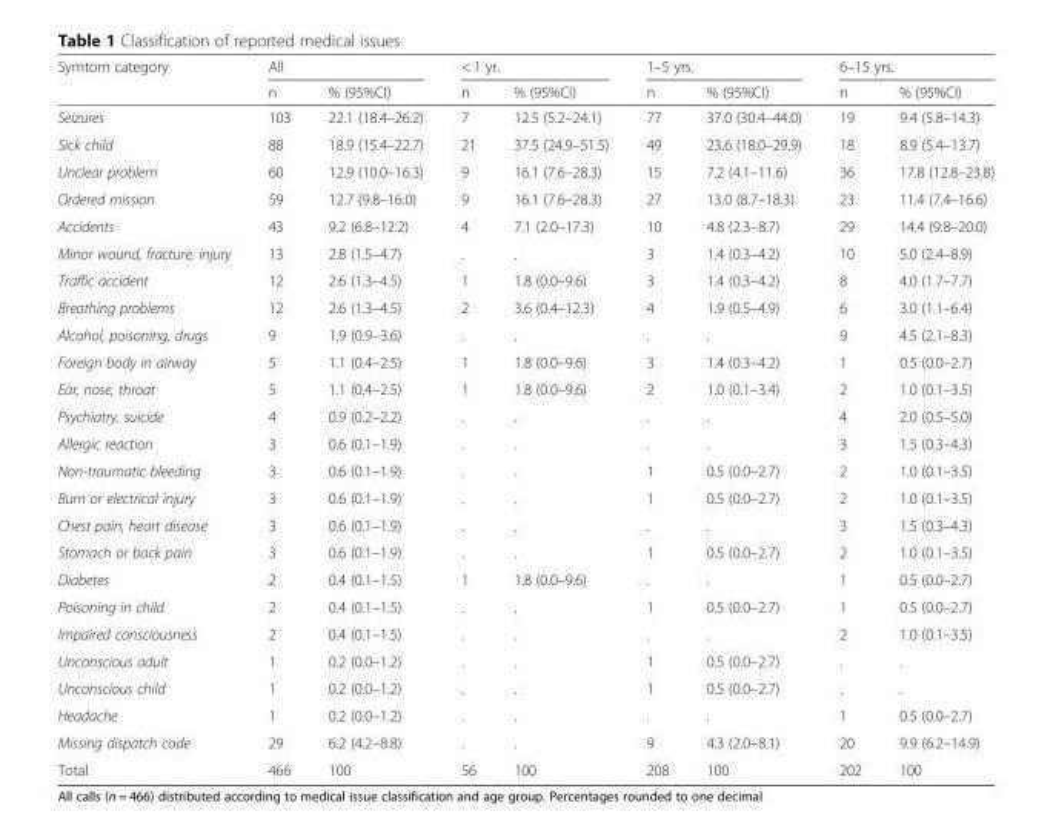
<table><thead><tr><td rowspan="2">Symtom category</td><td colspan="2">All</td><td colspan="2">&lt; 1 yr.</td><td colspan="2">1–5 yrs.</td><td colspan="2">6–15 yrs.</td></tr><tr><td>n</td><td>% (95%CI)</td><td>n</td><td>% (95%CI)</td><td>n</td><td>% (95%CI)</td><td>n</td><td>% (95%CI)</td></tr></thead><tbody><tr><td>Seizures</td><td>103</td><td>22.1 (18.4–26.2)</td><td>7</td><td>12.5 (5.2–24.1)</td><td>77</td><td>37.0 (30.4–44.0)</td><td>19</td><td>9.4 (5.8–14.3)</td></tr><tr><td>Sick child</td><td>88</td><td>18.9 (15.4–22.7)</td><td>21</td><td>37.5 (24.9–51.5)</td><td>49</td><td>23.6 (18.0–29.9)</td><td>18</td><td>8.9 (5.4–13.7)</td></tr><tr><td>Unclear problem</td><td>60</td><td>12.9 (10.0–16.3)</td><td>9</td><td>16.1 (7.6–28.3)</td><td>15</td><td>7.2 (4.1–11.6)</td><td>36</td><td>17.8 (12.8–23.8)</td></tr><tr><td>Ordered mission</td><td>59</td><td>12.7 (9.8–16.0)</td><td>9</td><td>16.1 (7.6–28.3)</td><td>27</td><td>13.0 (8.7–18.3)</td><td>23</td><td>11.4 (7.4–16.6)</td></tr><tr><td>Accidents</td><td>43</td><td>9.2 (6.8–12.2)</td><td>4</td><td>7.1 (2.0–17.3)</td><td>10</td><td>4.8 (2.3–8.7)</td><td>29</td><td>14.4 (9.8–20.0)</td></tr><tr><td>Minor wound, fracture, injury</td><td>13</td><td>2.8 (1.5–4.7)</td><td>.</td><td>.</td><td>3</td><td>1.4 (0.3–4.2)</td><td>10</td><td>5.0 (2.4–8.9)</td></tr><tr><td>Traffic accident</td><td>12</td><td>2.6 (1.3–4.5)</td><td>1</td><td>1.8 (0.0–9.6)</td><td>3</td><td>1.4 (0.3–4.2)</td><td>8</td><td>4.0 (1.7–7.7)</td></tr><tr><td>Breathing problems</td><td>12</td><td>2.6 (1.3–4.5)</td><td>2</td><td>3.6 (0.4–12.3)</td><td>4</td><td>1.9 (0.5–4.9)</td><td>6</td><td>3.0 (1.1–6.4)</td></tr><tr><td>Alcohol, poisoning, drugs</td><td>9</td><td>1.9 (0.9–3.6)</td><td>.</td><td>.</td><td>.</td><td>.</td><td>9</td><td>4.5 (2.1–8.3)</td></tr><tr><td>Foreign body in airway</td><td>5</td><td>1.1 (0.4–2.5)</td><td>1</td><td>1.8 (0.0–9.6)</td><td>3</td><td>1.4 (0.3–4.2)</td><td>1</td><td>0.5 (0.0–2.7)</td></tr><tr><td>Ear, nose, throat</td><td>5</td><td>1.1 (0.4–2.5)</td><td>1</td><td>1.8 (0.0–9.6)</td><td>2</td><td>1.0 (0.1–3.4)</td><td>2</td><td>1.0 (0.1–3.5)</td></tr><tr><td>Psychiatry, suicide</td><td>4</td><td>0.9 (0.2–2.2)</td><td>.</td><td>.</td><td>.</td><td>.</td><td>4</td><td>2.0 (0.5–5.0)</td></tr><tr><td>Allergic reaction</td><td>3</td><td>0.6 (0.1–1.9)</td><td>.</td><td>.</td><td>.</td><td>.</td><td>3</td><td>1.5 (0.3–4.3)</td></tr><tr><td>Non-traumatic bleeding</td><td>3</td><td>0.6 (0.1–1.9)</td><td>.</td><td>.</td><td>1</td><td>0.5 (0.0–2.7)</td><td>2</td><td>1.0 (0.1–3.5)</td></tr><tr><td>Burn or electrical injury</td><td>3</td><td>0.6 (0.1–1.9)</td><td>.</td><td>.</td><td>1</td><td>0.5 (0.0–2.7)</td><td>2</td><td>1.0 (0.1–3.5)</td></tr><tr><td>Chest pain, heart disease</td><td>3</td><td>0.6 (0.1–1.9)</td><td>.</td><td>.</td><td>.</td><td>.</td><td>3</td><td>1.5 (0.3–4.3)</td></tr><tr><td>Stomach or back pain</td><td>3</td><td>0.6 (0.1–1.9)</td><td>.</td><td>.</td><td>1</td><td>0.5 (0.0–2.7)</td><td>2</td><td>1.0 (0.1–3.5)</td></tr><tr><td>Diabetes</td><td>2</td><td>0.4 (0.1–1.5)</td><td>1</td><td>1.8 (0.0–9.6)</td><td>.</td><td>.</td><td>1</td><td>0.5 (0.0–2.7)</td></tr><tr><td>Poisoning in child</td><td>2</td><td>0.4 (0.1–1.5)</td><td>.</td><td>.</td><td>1</td><td>0.5 (0.0–2.7)</td><td>1</td><td>0.5 (0.0–2.7)</td></tr><tr><td>Impaired consciousness</td><td>2</td><td>0.4 (0.1–1.5)</td><td>.</td><td>.</td><td>.</td><td>.</td><td>2</td><td>1.0 (0.1–3.5)</td></tr><tr><td>Unconscious adult</td><td>1</td><td>0.2 (0.0–1.2)</td><td>.</td><td>.</td><td>1</td><td>0.5 (0.0–2.7)</td><td>.</td><td>.</td></tr><tr><td>Unconscious child</td><td>1</td><td>0.2 (0.0–1.2)</td><td>.</td><td>.</td><td>1</td><td>0.5 (0.0–2.7)</td><td>.</td><td>.</td></tr><tr><td>Headache</td><td>1</td><td>0.2 (0.0–1.2)</td><td>.</td><td>.</td><td>.</td><td>.</td><td>1</td><td>0.5 (0.0–2.7)</td></tr><tr><td>Missing dispatch code</td><td>29</td><td>6.2 (4.2–8.8)</td><td>.</td><td>.</td><td>9</td><td>4.3 (2.0–8.1)</td><td>20</td><td>9.9 (6.2–14.9)</td></tr><tr><td>Total</td><td>466</td><td>100</td><td>56</td><td>100</td><td>208</td><td>100</td><td>202</td><td>100</td></tr></tbody></table>